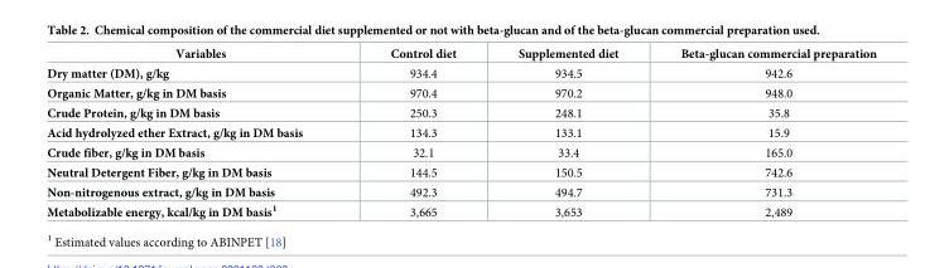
<table><thead><tr><td>Variables</td><td>Control diet</td><td>Supplemented diet</td><td>Beta-glucan commercial preparation</td></tr></thead><tbody><tr><td>Dry matter (DM), g/kg</td><td>934.4</td><td>934.5</td><td>942.6</td></tr><tr><td>Organic Matter, g/kg in DM basis</td><td>970.4</td><td>970.2</td><td>948.0</td></tr><tr><td>Crude Protein, g/kg in DM basis</td><td>250.3</td><td>248.1</td><td>35.8</td></tr><tr><td>Acid hydrolyzed ether Extract, g/kg in DM basis</td><td>134.3</td><td>133.1</td><td>15.9</td></tr><tr><td>Crude fiber, g/kg in DM basis</td><td>32.1</td><td>33.4</td><td>165.0</td></tr><tr><td>Neutral Detergent Fiber, g/kg in DM basis</td><td>144.5</td><td>150.5</td><td>742.6</td></tr><tr><td>Non-nitrogenous extract, g/kg in DM basis</td><td>492.3</td><td>494.7</td><td>731.3</td></tr><tr><td>Metabolizable energy, kcal/kg in DM basis<sup>1</sup></td><td>3,665</td><td>3,653</td><td>2,489</td></tr></tbody></table>